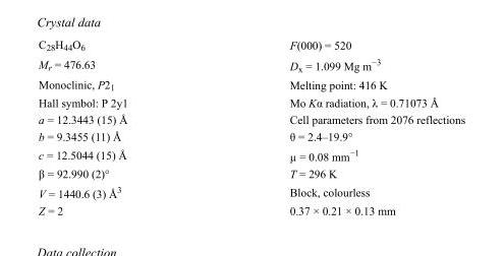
<table><tbody><tr><td>C<sub>28</sub>H<sub>44</sub>O<sub>6</sub></td><td>F(000) = 520</td></tr><tr><td>M<sub>r</sub> = 476.63</td><td>D<sub>x</sub> = 1.099 Mg m<sup>−3</sup></td></tr><tr><td>Monoclinic, P2<sub>1</sub></td><td>Melting point: 416 K</td></tr><tr><td>Hall symbol: P 2y1</td><td>Mo Kα radiation, λ = 0.71073 Å</td></tr><tr><td>a = 12.3443 (15) Å</td><td>Cell parameters from 2076 reflections</td></tr><tr><td>b = 9.3455 (11) Å</td><td>θ = 2.4–19.9°</td></tr><tr><td>c = 12.5044 (15) Å</td><td>µ = 0.08 mm<sup>−1</sup></td></tr><tr><td>β = 92.990 (2)°</td><td>T = 296 K</td></tr><tr><td>V = 1440.6 (3) Å<sup>3</sup></td><td>Block, colourless</td></tr><tr><td>Z = 2</td><td>0.37 × 0.21 × 0.13 mm</td></tr></tbody></table>